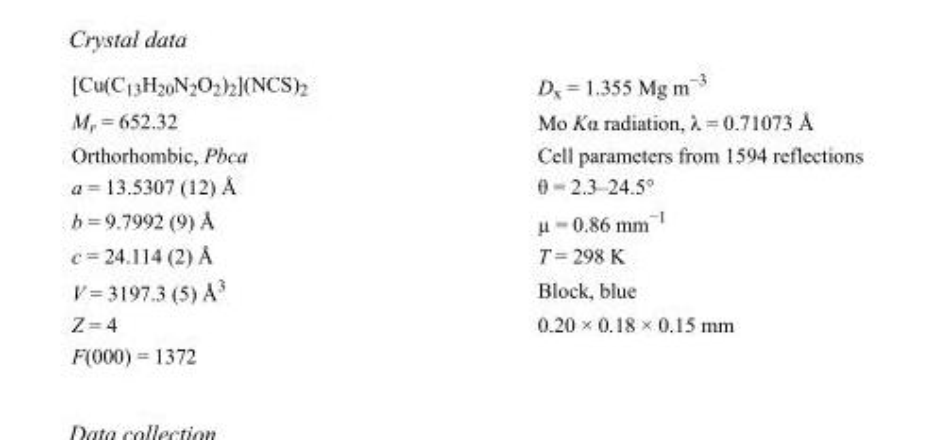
<table><tbody><tr><td>[Cu(C<sub>13</sub>H<sub>20</sub>N<sub>2</sub>O<sub>2</sub>)<sub>2</sub>](NCS)<sub>2</sub></td><td>D<sub>x</sub> = 1.355 Mg m<sup>−3</sup></td></tr><tr><td>M<sub>r</sub> = 652.32</td><td>Mo Kα radiation, λ = 0.71073 Å</td></tr><tr><td>Orthorhombic, Pbca</td><td>Cell parameters from 1594 reflections</td></tr><tr><td>a = 13.5307 (12) Å</td><td>θ = 2.3–24.5°</td></tr><tr><td>b = 9.7992 (9) Å</td><td>µ = 0.86 mm<sup>−1</sup></td></tr><tr><td>c = 24.114 (2) Å</td><td>T = 298 K</td></tr><tr><td>V = 3197.3 (5) Å<sup>3</sup></td><td>Block, blue</td></tr><tr><td>Z = 4</td><td>0.20 × 0.18 × 0.15 mm</td></tr><tr><td>F(000) = 1372</td><td></td></tr></tbody></table>